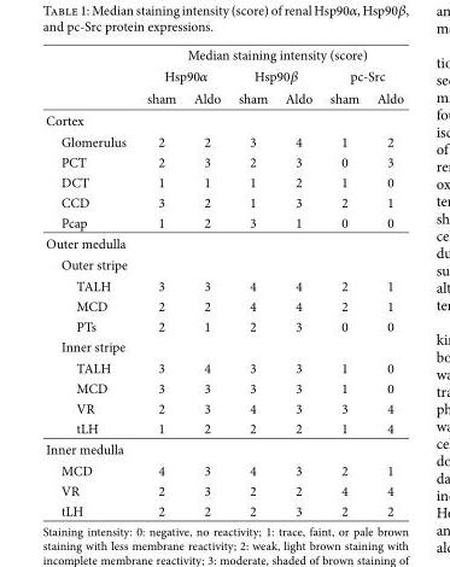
<table><thead><tr><td rowspan="3"></td><td colspan="6">Median staining intensity (score)</td></tr><tr><td colspan="2">Hsp90𝛼𝛼</td><td colspan="2">Hsp90𝛽𝛽</td><td colspan="2">pc-Src</td></tr><tr><td>sham</td><td>Aldo</td><td>sham</td><td>Aldo</td><td>sham</td><td>Aldo</td></tr></thead><tbody><tr><td colspan="7">Cortex</td></tr><tr><td>Glomerulus</td><td>2</td><td>2</td><td>3</td><td>4</td><td>1</td><td>2</td></tr><tr><td>PCT</td><td>2</td><td>3</td><td>2</td><td>3</td><td>0</td><td>3</td></tr><tr><td>DCT</td><td>1</td><td>1</td><td>1</td><td>2</td><td>1</td><td>0</td></tr><tr><td>CCD</td><td>3</td><td>2</td><td>1</td><td>3</td><td>2</td><td>1</td></tr><tr><td>Pcap</td><td>1</td><td>2</td><td>3</td><td>1</td><td>0</td><td>0</td></tr><tr><td colspan="7">Outer medulla</td></tr><tr><td colspan="7">Outer stripe</td></tr><tr><td>TALH</td><td>3</td><td>3</td><td>4</td><td>4</td><td>2</td><td>1</td></tr><tr><td>MCD</td><td>2</td><td>2</td><td>4</td><td>4</td><td>2</td><td>1</td></tr><tr><td>PTs</td><td>2</td><td>1</td><td>2</td><td>3</td><td>0</td><td>0</td></tr><tr><td colspan="7">Inner stripe</td></tr><tr><td>TALH</td><td>3</td><td>4</td><td>3</td><td>3</td><td>1</td><td>0</td></tr><tr><td>MCD</td><td>3</td><td>3</td><td>3</td><td>3</td><td>1</td><td>0</td></tr><tr><td>VR</td><td>2</td><td>3</td><td>4</td><td>3</td><td>3</td><td>4</td></tr><tr><td>tLH</td><td>1</td><td>2</td><td>2</td><td>2</td><td>1</td><td>4</td></tr><tr><td colspan="7">Inner medulla</td></tr><tr><td>MCD</td><td>4</td><td>3</td><td>4</td><td>3</td><td>2</td><td>1</td></tr><tr><td>VR</td><td>2</td><td>3</td><td>2</td><td>2</td><td>4</td><td>4</td></tr><tr><td>tLH</td><td>2</td><td>2</td><td>2</td><td>3</td><td>2</td><td>2</td></tr></tbody></table>